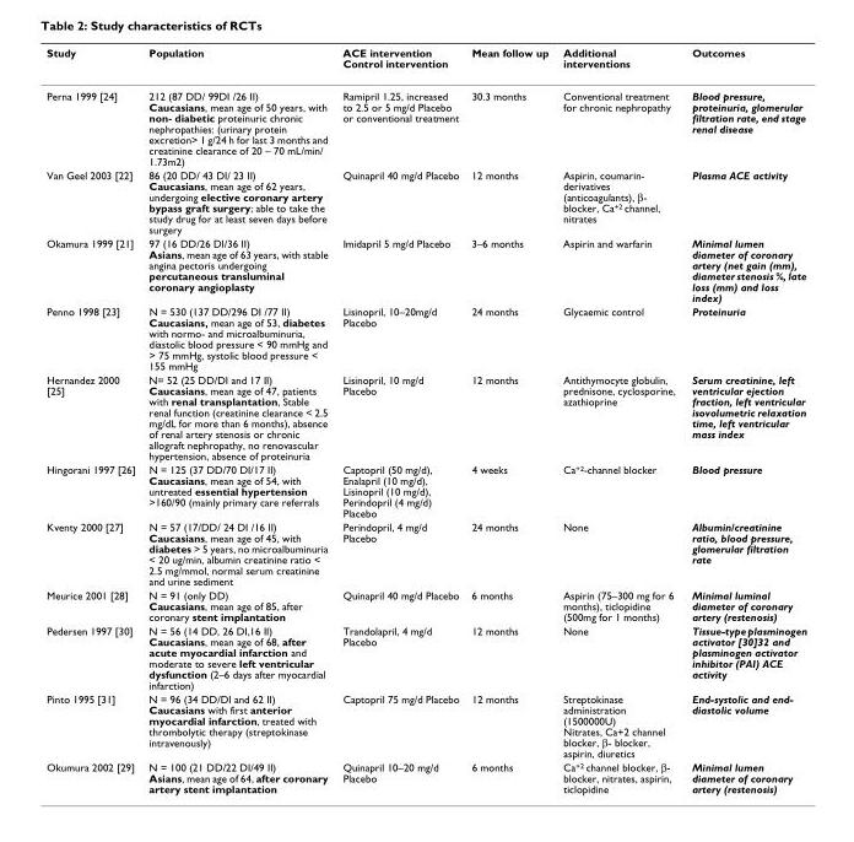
<table><thead><tr><td>Study</td><td>Population</td><td>ACE intervention Control intervention</td><td>Mean follow up</td><td>Additional interventions</td><td>Outcomes</td></tr></thead><tbody><tr><td>Perna 1999 [24]</td><td>212 (87 DD/ 99DI /26 II) Caucasians, mean age of 50 years, with non- diabetic proteinuric chronic nephropathies: (urinary protein excretion&gt; 1 g/24 h for last 3 months and creatinine clearance of 20 – 70 mL/min/ 1.73m2)</td><td>Ramipril 1.25, increased to 2.5 or 5 mg/d Placebo or conventional treatment</td><td>30.3 months</td><td>Conventional treatment for chronic nephropathy</td><td>Blood pressure, proteinuria, glomerular filtration rate, end stage renal disease</td></tr><tr><td>Van Geel 2003 [22]</td><td>86 (20 DD/ 43 DI/ 23 II) Caucasians, mean age of 62 years, undergoing elective coronary artery bypass graft surgery; able to take the study drug for at least seven days before surgery</td><td>Quinapril 40 mg/d Placebo</td><td>12 months</td><td>Aspirin, coumarin- derivatives (anticoagulants), β- blocker, Ca<sup>+2</sup> channel, nitrates</td><td>Plasma ACE activity</td></tr><tr><td>Okamura 1999 [21]</td><td>97 (16 DD/26 DI/36 II) Asians, mean age of 63 years, with stable angina pectoris undergoing percutaneous transluminal coronary angioplasty</td><td>Imidapril 5 mg/d Placebo</td><td>3–6 months</td><td>Aspirin and warfarin</td><td>Minimal lumen diameter of coronary artery (net gain (mm), diameter stenosis %, late loss (mm) and loss index)</td></tr><tr><td>Penno 1998 [23]</td><td>N = 530 (137 DD/296 DI /77 II) Caucasians, mean age of 53, diabetes with normo- and microalbuminuria, diastolic blood pressure &lt; 90 mmHg and &gt; 75 mmHg, systolic blood pressure &lt; 155 mmHg</td><td>Lisinopril, 10–20mg/d Placebo</td><td>24 months</td><td>Glycaemic control</td><td>Proteinuria</td></tr><tr><td>Hernandez 2000 [25]</td><td>N= 52 (25 DD/DI and 17 II) Caucasians, mean age of 47, patients with renal transplantation, Stable renal function (creatinine clearance &lt; 2.5 mg/dL for more than 6 months), absence of renal artery stenosis or chronic allograft nephropathy, no renovascular hypertension, absence of proteinuria</td><td>Lisinopril, 10 mg/d Placebo</td><td>12 months</td><td>Antithymocyte globulin, prednisone, cyclosporine, azathioprine</td><td>Serum creatinine, left ventricular ejection fraction, left ventricular isovolumetric relaxation time, left ventricular mass index</td></tr><tr><td>Hingorani 1997 [26]</td><td>N = 125 (37 DD/70 DI/17 II) Caucasians, mean age of 54, with untreated essential hypertension &gt;160/90 (mainly primary care referrals</td><td>Captopril (50 mg/d), Enalapril (10 mg/d), Lisinopril (10 mg/d), Perindopril (4 mg/d) Placebo</td><td>4 weeks</td><td>Ca<sup>+2</sup>-channel blocker</td><td>Blood pressure</td></tr><tr><td>Kventy 2000 [27]</td><td>N = 57 (17/DD/ 24 DI /16 II) Caucasians, mean age of 45, with diabetes &gt; 5 years, no microalbuminuria &lt; 20 ug/min, albumin creatinine ratio &lt; 2.5 mg/mmol, normal serum creatinine and urine sediment</td><td>Perindopril, 4 mg/d Placebo</td><td>24 months</td><td>None</td><td>Albumin/creatinine ratio, blood pressure, glomerular filtration rate</td></tr><tr><td>Meurice 2001 [28]</td><td>N = 91 (only DD) Caucasians, mean age of 85, after coronary stent implantation</td><td>Quinapril 40 mg/d Placebo</td><td>6 months</td><td>Aspirin (75–300 mg for 6 months), ticlopidine (500mg for 1 months)</td><td>Minimal luminal diameter of coronary artery (restenosis)</td></tr><tr><td>Pedersen 1997 [30]</td><td>N = 56 (14 DD, 26 DI,16 II) Caucasians, mean age of 68, after acute myocardial infarction and moderate to severe left ventricular dysfunction (2–6 days after myocardial infarction)</td><td>Trandolapril, 4 mg/d Placebo</td><td>12 months</td><td>None</td><td>Tissue-type plasminogen activator [30]32 and plasminogen activator inhibitor (PAI) ACE activity</td></tr><tr><td>Pinto 1995 [31]</td><td>N = 96 (34 DD/DI and 62 II) Caucasians with first anterior myocardial infarction, treated with thrombolytic therapy (streptokinase intravenously)</td><td>Captopril 75 mg/d Placebo</td><td>12 months</td><td>Streptokinase administration (1500000U) Nitrates, Ca+2 channel blocker, β- blocker, aspirin, diuretics</td><td>End-systolic and end- diastolic volume</td></tr><tr><td>Okumura 2002 [29]</td><td>N = 100 (21 DD/22 DI/49 II) Asians, mean age of 64, after coronary artery stent implantation</td><td>Quinapril 10–20 mg/d Placebo</td><td>6 months</td><td>Ca<sup>+2</sup> channel blocker, β- blocker, nitrates, aspirin, ticlopidine</td><td>Minimal lumen diameter of coronary artery (restenosis)</td></tr></tbody></table>